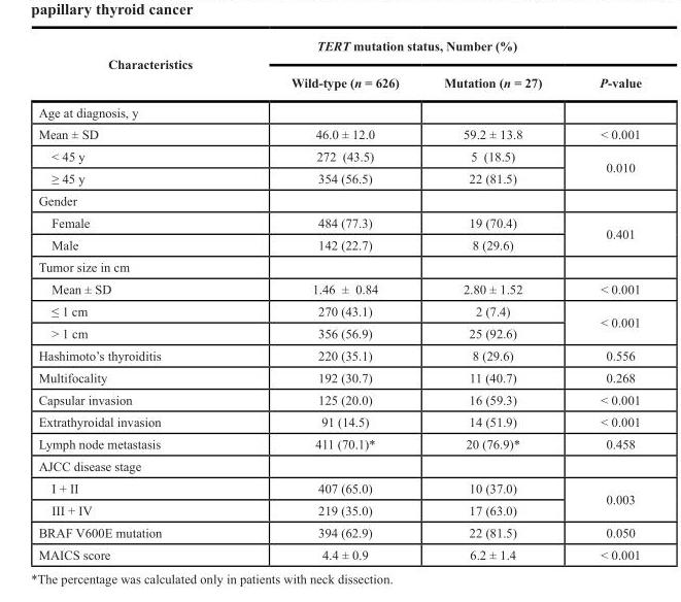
<table><thead><tr><td rowspan="2">Characteristics</td><td colspan="2">TERT mutation status, Number (%)</td><td rowspan="2">P-value</td></tr><tr><td>Wild-type (n = 626)</td><td>Mutation (n = 27)</td></tr></thead><tbody><tr><td colspan="4">Age at diagnosis, y</td></tr><tr><td>Mean ± SD</td><td>46.0 ± 12.0</td><td>59.2 ± 13.8</td><td>&lt; 0.001</td></tr><tr><td>&lt; 45 y</td><td>272 (43.5)</td><td>5 (18.5)</td><td rowspan="2">0.010</td></tr><tr><td>≥ 45 y</td><td>354 (56.5)</td><td>22 (81.5)</td></tr><tr><td colspan="4">Gender</td></tr><tr><td>Female</td><td>484 (77.3)</td><td>19 (70.4)</td><td rowspan="2">0.401</td></tr><tr><td>Male</td><td>142 (22.7)</td><td>8 (29.6)</td></tr><tr><td colspan="4">Tumor size in cm</td></tr><tr><td>Mean ± SD</td><td>1.46 ± 0.84</td><td>2.80 ± 1.52</td><td>&lt; 0.001</td></tr><tr><td>≤ 1 cm</td><td>270 (43.1)</td><td>2 (7.4)</td><td rowspan="2">&lt; 0.001</td></tr><tr><td>&gt; 1 cm</td><td>356 (56.9)</td><td>25 (92.6)</td></tr><tr><td>Hashimoto’s thyroiditis</td><td>220 (35.1)</td><td>8 (29.6)</td><td>0.556</td></tr><tr><td>Multifocality</td><td>192 (30.7)</td><td>11 (40.7)</td><td>0.268</td></tr><tr><td>Capsular invasion</td><td>125 (20.0)</td><td>16 (59.3)</td><td>&lt; 0.001</td></tr><tr><td>Extrathyroidal invasion</td><td>91 (14.5)</td><td>14 (51.9)</td><td>&lt; 0.001</td></tr><tr><td>Lymph node metastasis</td><td>411 (70.1)*</td><td>20 (76.9)*</td><td>0.458</td></tr><tr><td colspan="4">AJCC disease stage</td></tr><tr><td>I + II</td><td>407 (65.0)</td><td>10 (37.0)</td><td rowspan="2">0.003</td></tr><tr><td>III + IV</td><td>219 (35.0)</td><td>17 (63.0)</td></tr><tr><td>BRAF V600E mutation</td><td>394 (62.9)</td><td>22 (81.5)</td><td>0.050</td></tr><tr><td>MAICS score</td><td>4.4 ± 0.9</td><td>6.2 ± 1.4</td><td>&lt; 0.001</td></tr></tbody></table>